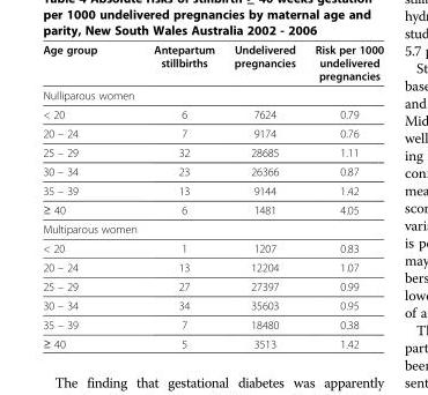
<table><thead><tr><td>Age group</td><td>Antepartum stillbirths</td><td>Undelivered pregnancies</td><td>Risk per 1000 undelivered pregnancies</td></tr></thead><tbody><tr><td colspan="4">Nulliparous women</td></tr><tr><td>&lt; 20</td><td>6</td><td>7624</td><td>0.79</td></tr><tr><td>20 – 24</td><td>7</td><td>9174</td><td>0.76</td></tr><tr><td>25 – 29</td><td>32</td><td>28685</td><td>1.11</td></tr><tr><td>30 – 34</td><td>23</td><td>26366</td><td>0.87</td></tr><tr><td>35 – 39</td><td>13</td><td>9144</td><td>1.42</td></tr><tr><td>≥ 40</td><td>6</td><td>1481</td><td>4.05</td></tr><tr><td colspan="4">Multiparous women</td></tr><tr><td>&lt; 20</td><td>1</td><td>1207</td><td>0.83</td></tr><tr><td>20 – 24</td><td>13</td><td>12204</td><td>1.07</td></tr><tr><td>25 – 29</td><td>27</td><td>27397</td><td>0.99</td></tr><tr><td>30 – 34</td><td>34</td><td>35603</td><td>0.95</td></tr><tr><td>35 – 39</td><td>7</td><td>18480</td><td>0.38</td></tr><tr><td>≥ 40</td><td>5</td><td>3513</td><td>1.42</td></tr></tbody></table>